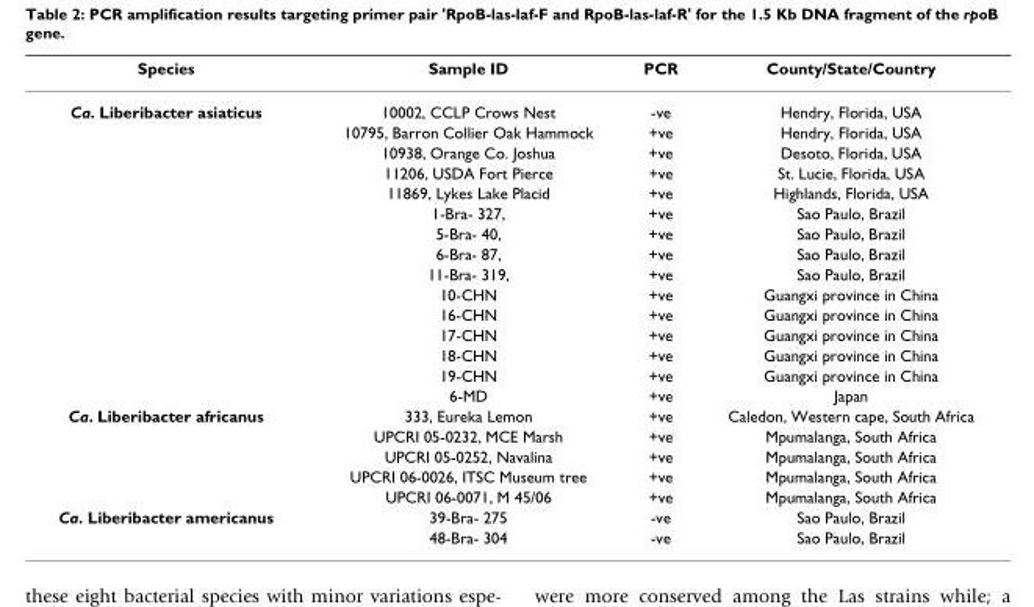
<table><thead><tr><td>Species</td><td>Sample ID</td><td>PCR</td><td>County/State/Country</td></tr></thead><tbody><tr><td rowspan="15">Ca. Liberibacter asiaticus</td><td>10002, CCLP Crows Nest</td><td>-ve</td><td>Hendry, Florida, USA</td></tr><tr><td>10795, Barron Collier Oak Hammock</td><td>+ve</td><td>Hendry, Florida, USA</td></tr><tr><td>10938, Orange Co. Joshua</td><td>+ve</td><td>Desoto, Florida, USA</td></tr><tr><td>11206, USDA Fort Pierce</td><td>+ve</td><td>St. Lucie, Florida, USA</td></tr><tr><td>11869, Lykes Lake Placid</td><td>+ve</td><td>Highlands, Florida, USA</td></tr><tr><td>1-Bra- 327,</td><td>+ve</td><td>Sao Paulo, Brazil</td></tr><tr><td>5-Bra- 40,</td><td>+ve</td><td>Sao Paulo, Brazil</td></tr><tr><td>6-Bra- 87,</td><td>+ve</td><td>Sao Paulo, Brazil</td></tr><tr><td>11-Bra- 319,</td><td>+ve</td><td>Sao Paulo, Brazil</td></tr><tr><td>10-CHN</td><td>+ve</td><td>Guangxi province in China</td></tr><tr><td>16-CHN</td><td>+ve</td><td>Guangxi province in China</td></tr><tr><td>17-CHN</td><td>+ve</td><td>Guangxi province in China</td></tr><tr><td>18-CHN</td><td>+ve</td><td>Guangxi province in China</td></tr><tr><td>19-CHN</td><td>+ve</td><td>Guangxi province in China</td></tr><tr><td>6-MD</td><td>+ve</td><td>Japan</td></tr><tr><td rowspan="5">Ca. Liberibacter africanus</td><td>333, Eureka Lemon</td><td>+ve</td><td>Caledon, Western cape, South Africa</td></tr><tr><td>UPCRI 05-0232, MCE Marsh</td><td>+ve</td><td>Mpumalanga, South Africa</td></tr><tr><td>UPCRI 05-0252, Navalina</td><td>+ve</td><td>Mpumalanga, South Africa</td></tr><tr><td>UPCRI 06-0026, ITSC Museum tree</td><td>+ve</td><td>Mpumalanga, South Africa</td></tr><tr><td>UPCRI 06-0071, M 45/06</td><td>+ve</td><td>Mpumalanga, South Africa</td></tr><tr><td rowspan="2">Ca. Liberibacter americanus</td><td>39-Bra- 275</td><td>-ve</td><td>Sao Paulo, Brazil</td></tr><tr><td>48-Bra- 304</td><td>-ve</td><td>Sao Paulo, Brazil</td></tr></tbody></table>